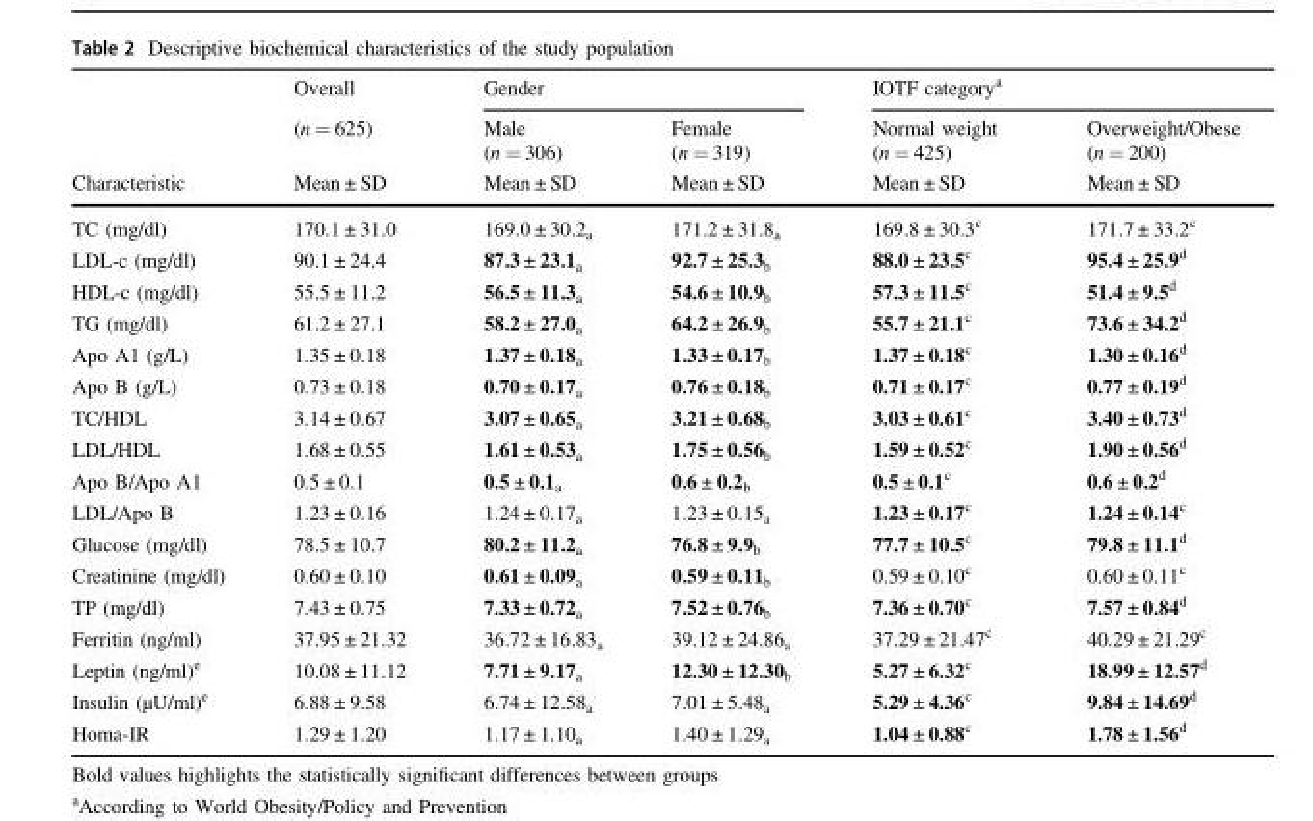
<table><thead><tr><td rowspan="3">Characteristic</td><td rowspan="3">Overall (n = 625) Mean ± SD</td><td colspan="2">Gender</td><td colspan="2">IOTF category<sup>a</sup></td></tr><tr><td rowspan="2">Male (n = 306) Mean ± SD</td><td rowspan="2">Female (n = 319) Mean ± SD</td><td rowspan="2">Normal weight (n = 425) Mean ± SD</td><td rowspan="2">Overweight/Obese (n = 200) Mean ± SD</td></tr><tr></tr></thead><tbody><tr><td>TC (mg/dl)</td><td>170.1 ± 31.0</td><td>169.0 ± 30.2<sub>a</sub></td><td>171.2 ± 31.8<sub>a</sub></td><td>169.8 ± 30.3<sup>c</sup></td><td>171.7 ± 33.2<sup>c</sup></td></tr><tr><td>LDL-c (mg/dl)</td><td>90.1 ± 24.4</td><td>87.3 ± 23.1<sub>a</sub></td><td>92.7 ± 25.3<sub>b</sub></td><td>88.0 ± 23.5<sup>c</sup></td><td>95.4 ± 25.9<sup>d</sup></td></tr><tr><td>HDL-c (mg/dl)</td><td>55.5 ± 11.2</td><td>56.5 ± 11.3<sub>a</sub></td><td>54.6 ± 10.9<sub>b</sub></td><td>57.3 ± 11.5<sup>c</sup></td><td>51.4 ± 9.5<sup>d</sup></td></tr><tr><td>TG (mg/dl)</td><td>61.2 ± 27.1</td><td>58.2 ± 27.0<sub>a</sub></td><td>64.2 ± 26.9<sub>b</sub></td><td>55.7 ± 21.1<sup>c</sup></td><td>73.6 ± 34.2<sup>d</sup></td></tr><tr><td>Apo A1 (g/L)</td><td>1.35 ± 0.18</td><td>1.37 ± 0.18<sub>a</sub></td><td>1.33 ± 0.17<sub>b</sub></td><td>1.37 ± 0.18<sup>c</sup></td><td>1.30 ± 0.16<sup>d</sup></td></tr><tr><td>Apo B (g/L)</td><td>0.73 ± 0.18</td><td>0.70 ± 0.17<sub>a</sub></td><td>0.76 ± 0.18<sub>b</sub></td><td>0.71 ± 0.17<sup>c</sup></td><td>0.77 ± 0.19<sup>d</sup></td></tr><tr><td>TC/HDL</td><td>3.14 ± 0.67</td><td>3.07 ± 0.65<sub>a</sub></td><td>3.21 ± 0.68<sub>b</sub></td><td>3.03 ± 0.61<sup>c</sup></td><td>3.40 ± 0.73<sup>d</sup></td></tr><tr><td>LDL/HDL</td><td>1.68 ± 0.55</td><td>1.61 ± 0.53<sub>a</sub></td><td>1.75 ± 0.56<sub>b</sub></td><td>1.59 ± 0.52<sup>c</sup></td><td>1.90 ± 0.56<sup>d</sup></td></tr><tr><td>Apo B/Apo A1</td><td>0.5 ± 0.1</td><td>0.5 ± 0.1<sub>a</sub></td><td>0.6 ± 0.2<sub>b</sub></td><td>0.5 ± 0.1<sup>c</sup></td><td>0.6 ± 0.2<sup>d</sup></td></tr><tr><td>LDL/Apo B</td><td>1.23 ± 0.16</td><td>1.24 ± 0.17<sub>a</sub></td><td>1.23 ± 0.15<sub>a</sub></td><td>1.23 ± 0.17<sup>c</sup></td><td>1.24 ± 0.14<sup>c</sup></td></tr><tr><td>Glucose (mg/dl)</td><td>78.5 ± 10.7</td><td>80.2 ± 11.2<sub>a</sub></td><td>76.8 ± 9.9<sub>b</sub></td><td>77.7 ± 10.5<sup>c</sup></td><td>79.8 ± 11.1<sup>d</sup></td></tr><tr><td>Creatinine (mg/dl)</td><td>0.60 ± 0.10</td><td>0.61 ± 0.09<sub>a</sub></td><td>0.59 ± 0.11<sub>b</sub></td><td>0.59 ± 0.10<sup>c</sup></td><td>0.60 ± 0.11<sup>c</sup></td></tr><tr><td>TP (mg/dl)</td><td>7.43 ± 0.75</td><td>7.33 ± 0.72<sub>a</sub></td><td>7.52 ± 0.76<sub>b</sub></td><td>7.36 ± 0.70<sup>c</sup></td><td>7.57 ± 0.84<sup>d</sup></td></tr><tr><td>Ferritin (ng/ml)</td><td>37.95 ± 21.32</td><td>36.72 ± 16.83<sub>a</sub></td><td>39.12 ± 24.86<sub>a</sub></td><td>37.29 ± 21.47<sup>c</sup></td><td>40.29 ± 21.29<sup>c</sup></td></tr><tr><td>Leptin (ng/ml)<sup>e</sup></td><td>10.08 ± 11.12</td><td>7.71 ± 9.17<sub>a</sub></td><td>12.30 ± 12.30<sub>b</sub></td><td>5.27 ± 6.32<sup>c</sup></td><td>18.99 ± 12.57<sup>d</sup></td></tr><tr><td>Insulin (µU/ml)<sup>e</sup></td><td>6.88 ± 9.58</td><td>6.74 ± 12.58<sub>a</sub></td><td>7.01 ± 5.48<sub>a</sub></td><td>5.29 ± 4.36<sup>c</sup></td><td>9.84 ± 14.69<sup>d</sup></td></tr><tr><td>Homa-IR</td><td>1.29 ± 1.20</td><td>1.17 ± 1.10<sub>a</sub></td><td>1.40 ± 1.29<sub>a</sub></td><td>1.04 ± 0.88<sup>c</sup></td><td>1.78 ± 1.56<sup>d</sup></td></tr></tbody></table>